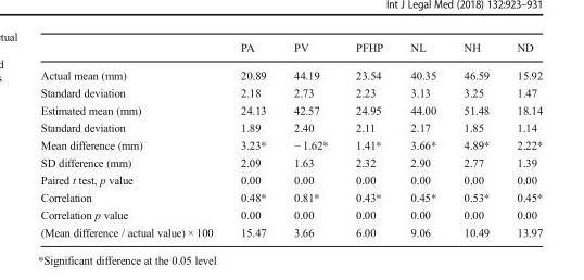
<table><thead><tr><td></td><td>PA</td><td>PV</td><td>PFHP</td><td>NL</td><td>NH</td><td>ND</td></tr></thead><tbody><tr><td>Actual mean (mm)</td><td>20.89</td><td>44.19</td><td>23.54</td><td>40.35</td><td>46.59</td><td>15.92</td></tr><tr><td>Standard deviation</td><td>2.18</td><td>2.73</td><td>2.23</td><td>3.13</td><td>3.25</td><td>1.47</td></tr><tr><td>Estimated mean (mm)</td><td>24.13</td><td>42.57</td><td>24.95</td><td>44.00</td><td>51.48</td><td>18.14</td></tr><tr><td>Standard deviation</td><td>1.89</td><td>2.40</td><td>2.11</td><td>2.17</td><td>1.85</td><td>1.14</td></tr><tr><td>Mean difference (mm)</td><td>3.23*</td><td>− 1.62*</td><td>1.41*</td><td>3.66*</td><td>4.89*</td><td>2.22*</td></tr><tr><td>SD difference (mm)</td><td>2.09</td><td>1.63</td><td>2.32</td><td>2.90</td><td>2.77</td><td>1.39</td></tr><tr><td>Paired t test, p value</td><td>0.00</td><td>0.00</td><td>0.00</td><td>0.00</td><td>0.00</td><td>0.00</td></tr><tr><td>Correlation</td><td>0.48*</td><td>0.81*</td><td>0.43*</td><td>0.45*</td><td>0.53*</td><td>0.45*</td></tr><tr><td>Correlation p value</td><td>0.00</td><td>0.00</td><td>0.00</td><td>0.00</td><td>0.00</td><td>0.00</td></tr><tr><td>(Mean difference / actual value) × 100</td><td>15.47</td><td>3.66</td><td>6.00</td><td>9.06</td><td>10.49</td><td>13.97</td></tr></tbody></table>